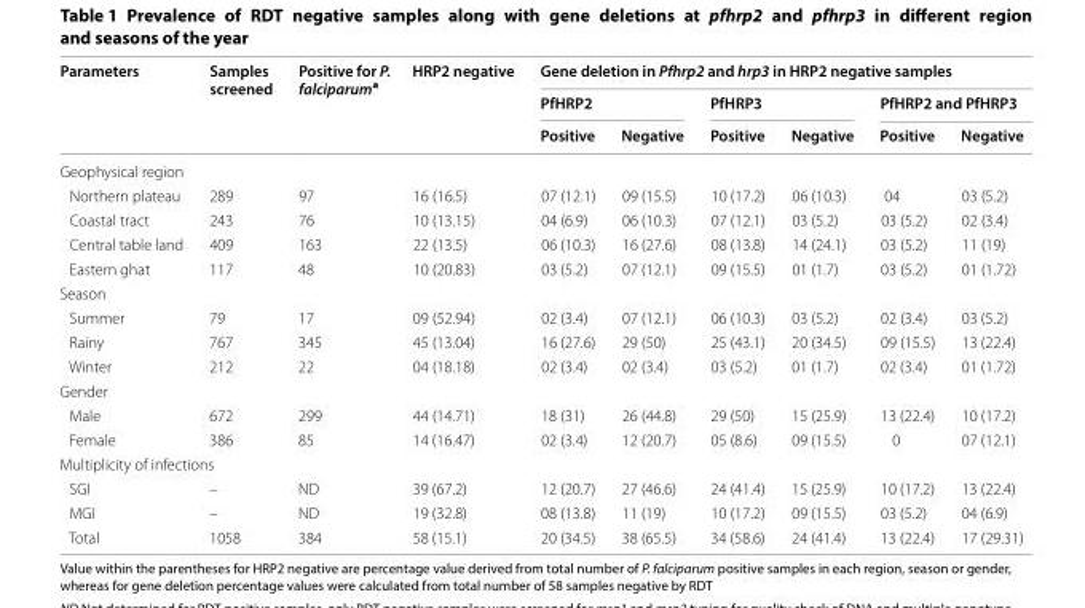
<table><thead><tr><td rowspan="3">Parameters</td><td rowspan="3">Samples screened</td><td rowspan="3">Positive for P. falciparum<sup>a</sup></td><td rowspan="3">HRP2 negative</td><td colspan="6">Gene deletion in Pfhrp2 and hrp3 in HRP2 negative samples</td></tr><tr><td colspan="2">PfHRP2</td><td colspan="2">PfHRP3</td><td colspan="2">PfHRP2 and PfHRP3</td></tr><tr><td>Positive</td><td>Negative</td><td>Positive</td><td>Negative</td><td>Positive</td><td>Negative</td></tr></thead><tbody><tr><td colspan="10">Geophysical region</td></tr><tr><td>Northern plateau</td><td>289</td><td>97</td><td>16 (16.5)</td><td>07 (12.1)</td><td>09 (15.5)</td><td>10 (17.2)</td><td>06 (10.3)</td><td>04</td><td>03 (5.2)</td></tr><tr><td>Coastal tract</td><td>243</td><td>76</td><td>10 (13.15)</td><td>04 (6.9)</td><td>06 (10.3)</td><td>07 (12.1)</td><td>03 (5.2)</td><td>03 (5.2)</td><td>02 (3.4)</td></tr><tr><td>Central table land</td><td>409</td><td>163</td><td>22 (13.5)</td><td>06 (10.3)</td><td>16 (27.6)</td><td>08 (13.8)</td><td>14 (24.1)</td><td>03 (5.2)</td><td>11 (19)</td></tr><tr><td>Eastern ghat</td><td>117</td><td>48</td><td>10 (20.83)</td><td>03 (5.2)</td><td>07 (12.1)</td><td>09 (15.5)</td><td>01 (1.7)</td><td>03 (5.2)</td><td>01 (1.72)</td></tr><tr><td colspan="10">Season</td></tr><tr><td>Summer</td><td>79</td><td>17</td><td>09 (52.94)</td><td>02 (3.4)</td><td>07 (12.1)</td><td>06 (10.3)</td><td>03 (5.2)</td><td>02 (3.4)</td><td>03 (5.2)</td></tr><tr><td>Rainy</td><td>767</td><td>345</td><td>45 (13.04)</td><td>16 (27.6)</td><td>29 (50)</td><td>25 (43.1)</td><td>20 (34.5)</td><td>09 (15.5)</td><td>13 (22.4)</td></tr><tr><td>Winter</td><td>212</td><td>22</td><td>04 (18.18)</td><td>02 (3.4)</td><td>02 (3.4)</td><td>03 (5.2)</td><td>01 (1.7)</td><td>02 (3.4)</td><td>01 (1.72)</td></tr><tr><td colspan="10">Gender</td></tr><tr><td>Male</td><td>672</td><td>299</td><td>44 (14.71)</td><td>18 (31)</td><td>26 (44.8)</td><td>29 (50)</td><td>15 (25.9)</td><td>13 (22.4)</td><td>10 (17.2)</td></tr><tr><td>Female</td><td>386</td><td>85</td><td>14 (16.47)</td><td>02 (3.4)</td><td>12 (20.7)</td><td>05 (8.6)</td><td>09 (15.5)</td><td>0</td><td>07 (12.1)</td></tr><tr><td colspan="10">Multiplicity of infections</td></tr><tr><td>SGI</td><td>–</td><td>ND</td><td>39 (67.2)</td><td>12 (20.7)</td><td>27 (46.6)</td><td>24 (41.4)</td><td>15 (25.9)</td><td>10 (17.2)</td><td>13 (22.4)</td></tr><tr><td>MGI</td><td>–</td><td>ND</td><td>19 (32.8)</td><td>08 (13.8)</td><td>11 (19)</td><td>10 (17.2)</td><td>09 (15.5)</td><td>03 (5.2)</td><td>04 (6.9)</td></tr><tr><td>Total</td><td>1058</td><td>384</td><td>58 (15.1)</td><td>20 (34.5)</td><td>38 (65.5)</td><td>34 (58.6)</td><td>24 (41.4)</td><td>13 (22.4)</td><td>17 (29.31)</td></tr></tbody></table>